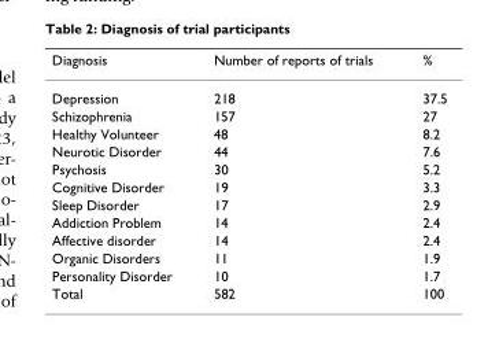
<table><thead><tr><td>Diagnosis</td><td>Number of reports of trials</td><td>%</td></tr></thead><tbody><tr><td>Depression</td><td>218</td><td>37.5</td></tr><tr><td>Schizophrenia</td><td>157</td><td>27</td></tr><tr><td>Healthy Volunteer</td><td>48</td><td>8.2</td></tr><tr><td>Neurotic Disorder</td><td>44</td><td>7.6</td></tr><tr><td>Psychosis</td><td>30</td><td>5.2</td></tr><tr><td>Cognitive Disorder</td><td>19</td><td>3.3</td></tr><tr><td>Sleep Disorder</td><td>17</td><td>2.9</td></tr><tr><td>Addiction Problem</td><td>14</td><td>2.4</td></tr><tr><td>Affective disorder</td><td>14</td><td>2.4</td></tr><tr><td>Organic Disorders</td><td>11</td><td>1.9</td></tr><tr><td>Personality Disorder</td><td>10</td><td>1.7</td></tr><tr><td>Total</td><td>582</td><td>100</td></tr></tbody></table>